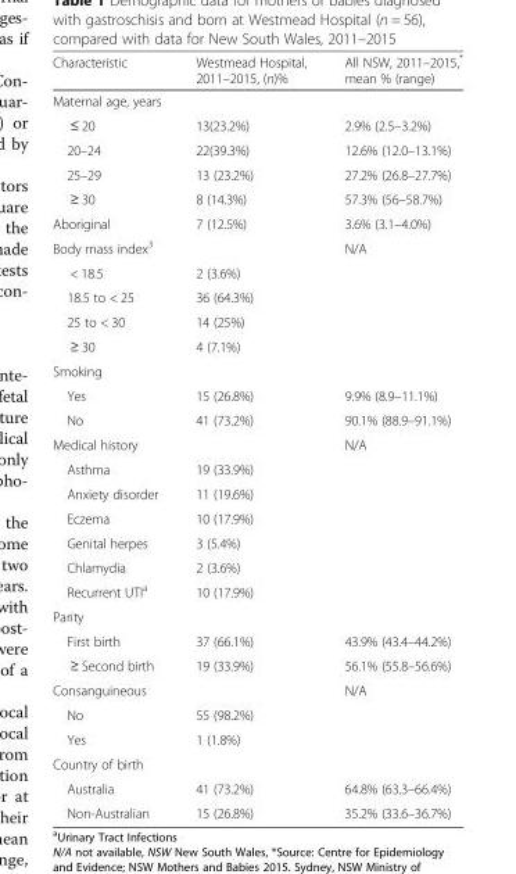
<table><thead><tr><td>Characteristic</td><td>Westmead Hospital, 2011–2015, (n)%</td><td>All NSW, 2011–2015,* mean % (range)</td></tr></thead><tbody><tr><td colspan="3">Maternal age, years</td></tr><tr><td>≤ 20</td><td>13(23.2%)</td><td>2.9% (2.5–3.2%)</td></tr><tr><td>20–24</td><td>22(39.3%)</td><td>12.6% (12.0–13.1%)</td></tr><tr><td>25–29</td><td>13 (23.2%)</td><td>27.2% (26.8–27.7%)</td></tr><tr><td>≥ 30</td><td>8 (14.3%)</td><td>57.3% (56–58.7%)</td></tr><tr><td>Aboriginal</td><td>7 (12.5%)</td><td>3.6% (3.1–4.0%)</td></tr><tr><td>Body mass index<sup>3</sup></td><td></td><td>N/A</td></tr><tr><td>&lt; 18.5</td><td>2 (3.6%)</td><td></td></tr><tr><td>18.5 to &lt; 25</td><td>36 (64.3%)</td><td></td></tr><tr><td>25 to &lt; 30</td><td>14 (25%)</td><td></td></tr><tr><td>≥ 30</td><td>4 (7.1%)</td><td></td></tr><tr><td colspan="3">Smoking</td></tr><tr><td>Yes</td><td>15 (26.8%)</td><td>9.9% (8.9–11.1%)</td></tr><tr><td>No</td><td>41 (73.2%)</td><td>90.1% (88.9–91.1%)</td></tr><tr><td>Medical history</td><td></td><td>N/A</td></tr><tr><td>Asthma</td><td>19 (33.9%)</td><td></td></tr><tr><td>Anxiety disorder</td><td>11 (19.6%)</td><td></td></tr><tr><td>Eczema</td><td>10 (17.9%)</td><td></td></tr><tr><td>Genital herpes</td><td>3 (5.4%)</td><td></td></tr><tr><td>Chlamydia</td><td>2 (3.6%)</td><td></td></tr><tr><td>Recurrent UTI<sup>a</sup></td><td>10 (17.9%)</td><td></td></tr><tr><td colspan="3">Parity</td></tr><tr><td>First birth</td><td>37 (66.1%)</td><td>43.9% (43.4–44.2%)</td></tr><tr><td>≥ Second birth</td><td>19 (33.9%)</td><td>56.1% (55.8–56.6%)</td></tr><tr><td>Consanguineous</td><td></td><td>N/A</td></tr><tr><td>No</td><td>55 (98.2%)</td><td></td></tr><tr><td>Yes</td><td>1 (1.8%)</td><td></td></tr><tr><td colspan="3">Country of birth</td></tr><tr><td>Australia</td><td>41 (73.2%)</td><td>64.8% (63.3–66.4%)</td></tr><tr><td>Non-Australian</td><td>15 (26.8%)</td><td>35.2% (33.6–36.7%)</td></tr></tbody></table>